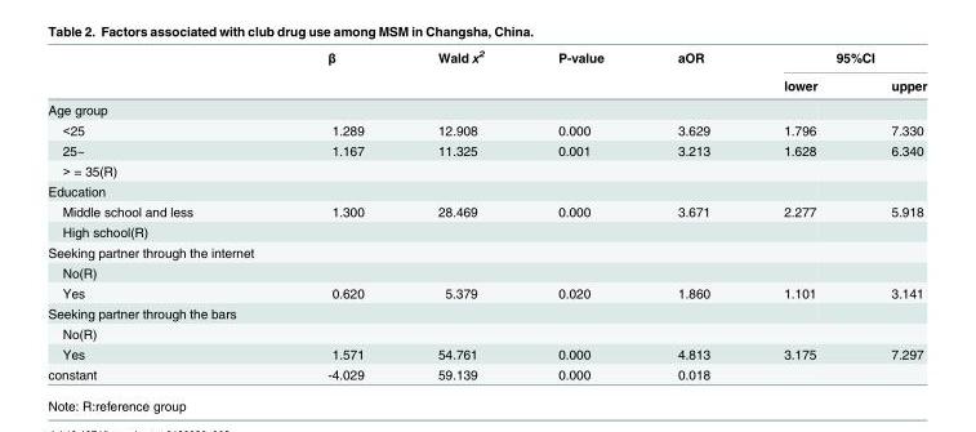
<table><thead><tr><td rowspan="2"></td><td rowspan="2">β</td><td rowspan="2">Wald x<sup>2</sup></td><td rowspan="2">P-value</td><td rowspan="2">aOR</td><td colspan="2">95%CI</td></tr><tr><td>lower</td><td>upper</td></tr></thead><tbody><tr><td colspan="7">Age group</td></tr><tr><td>&lt;25</td><td>1.289</td><td>12.908</td><td>0.000</td><td>3.629</td><td>1.796</td><td>7.330</td></tr><tr><td>25~</td><td>1.167</td><td>11.325</td><td>0.001</td><td>3.213</td><td>1.628</td><td>6.340</td></tr><tr><td colspan="7">&gt; = 35(R)</td></tr><tr><td colspan="7">Education</td></tr><tr><td>Middle school and less</td><td>1.300</td><td>28.469</td><td>0.000</td><td>3.671</td><td>2.277</td><td>5.918</td></tr><tr><td colspan="7">High school(R)</td></tr><tr><td colspan="7">Seeking partner through the internet</td></tr><tr><td colspan="7">No(R)</td></tr><tr><td>Yes</td><td>0.620</td><td>5.379</td><td>0.020</td><td>1.860</td><td>1.101</td><td>3.141</td></tr><tr><td colspan="7">Seeking partner through the bars</td></tr><tr><td colspan="7">No(R)</td></tr><tr><td>Yes</td><td>1.571</td><td>54.761</td><td>0.000</td><td>4.813</td><td>3.175</td><td>7.297</td></tr><tr><td>constant</td><td>-4.029</td><td>59.139</td><td>0.000</td><td>0.018</td><td></td><td></td></tr></tbody></table>